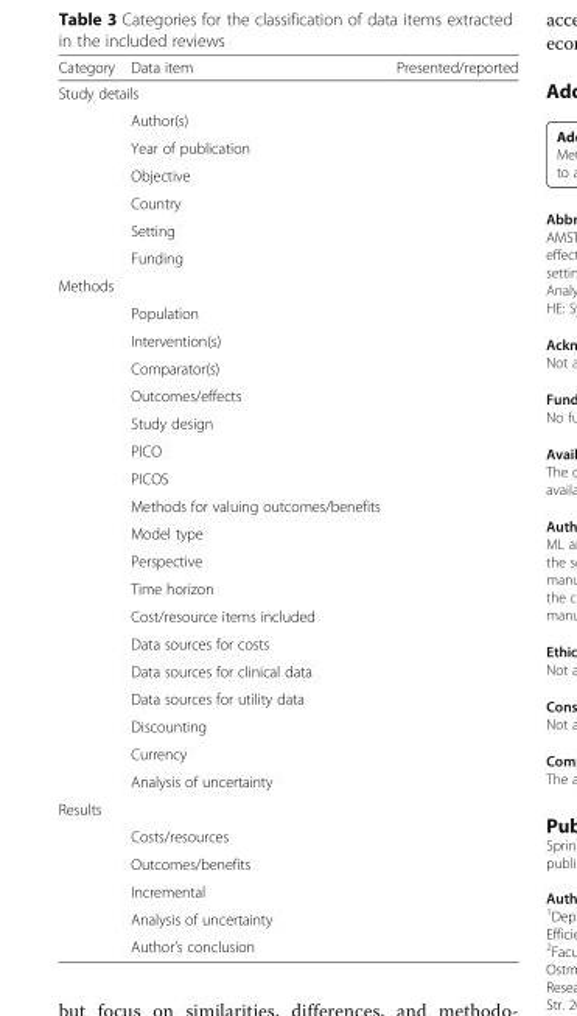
<table><thead><tr><td>Category</td><td>Data item</td><td>Presented/reported</td></tr></thead><tbody><tr><td colspan="3">Study details</td></tr><tr><td></td><td>Author(s)</td><td></td></tr><tr><td></td><td>Year of publication</td><td></td></tr><tr><td></td><td>Objective</td><td></td></tr><tr><td></td><td>Country</td><td></td></tr><tr><td></td><td>Setting</td><td></td></tr><tr><td></td><td>Funding</td><td></td></tr><tr><td colspan="3">Methods</td></tr><tr><td></td><td>Population</td><td></td></tr><tr><td></td><td>Intervention(s)</td><td></td></tr><tr><td></td><td>Comparator(s)</td><td></td></tr><tr><td></td><td>Outcomes/effects</td><td></td></tr><tr><td></td><td>Study design</td><td></td></tr><tr><td></td><td>PICO</td><td></td></tr><tr><td></td><td>PICOS</td><td></td></tr><tr><td></td><td>Methods for valuing outcomes/benefits</td><td></td></tr><tr><td></td><td>Model type</td><td></td></tr><tr><td></td><td>Perspective</td><td></td></tr><tr><td></td><td>Time horizon</td><td></td></tr><tr><td></td><td>Cost/resource items included</td><td></td></tr><tr><td></td><td>Data sources for costs</td><td></td></tr><tr><td></td><td>Data sources for clinical data</td><td></td></tr><tr><td></td><td>Data sources for utility data</td><td></td></tr><tr><td></td><td>Discounting</td><td></td></tr><tr><td></td><td>Currency</td><td></td></tr><tr><td></td><td>Analysis of uncertainty</td><td></td></tr><tr><td colspan="3">Results</td></tr><tr><td></td><td>Costs/resources</td><td></td></tr><tr><td></td><td>Outcomes/benefits</td><td></td></tr><tr><td></td><td>Incremental</td><td></td></tr><tr><td></td><td>Analysis of uncertainty</td><td></td></tr><tr><td></td><td>Author’s conclusion</td><td></td></tr></tbody></table>